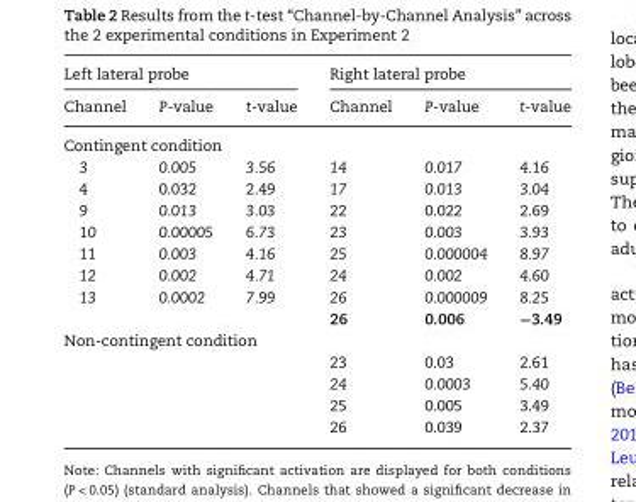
<table><thead><tr><td colspan="3">Left lateral probe</td><td colspan="3">Right lateral probe</td></tr><tr><td>Channel</td><td>P-value</td><td>t-value</td><td>Channel</td><td>P-value</td><td>t-value</td></tr></thead><tbody><tr><td colspan="6">Contingent condition</td></tr><tr><td>3</td><td>0.005</td><td>3.56</td><td>14</td><td>0.017</td><td>4.16</td></tr><tr><td>4</td><td>0.032</td><td>2.49</td><td>17</td><td>0.013</td><td>3.04</td></tr><tr><td>9</td><td>0.013</td><td>3.03</td><td>22</td><td>0.022</td><td>2.69</td></tr><tr><td>10</td><td>0.00005</td><td>6.73</td><td>23</td><td>0.003</td><td>3.93</td></tr><tr><td>11</td><td>0.003</td><td>4.16</td><td>25</td><td>0.000004</td><td>8.97</td></tr><tr><td>12</td><td>0.002</td><td>4.71</td><td>24</td><td>0.002</td><td>4.60</td></tr><tr><td rowspan="2">13</td><td>0.0002</td><td>7.99</td><td>26</td><td>0.000009</td><td>8.25</td></tr><tr><td></td><td></td><td>26</td><td>0.006</td><td>−3.49</td></tr><tr><td colspan="6">Non-contingent condition</td></tr><tr><td></td><td></td><td></td><td>23</td><td>0.03</td><td>2.61</td></tr><tr><td></td><td></td><td></td><td>24</td><td>0.0003</td><td>5.40</td></tr><tr><td></td><td></td><td></td><td>25</td><td>0.005</td><td>3.49</td></tr><tr><td></td><td></td><td></td><td>26</td><td>0.039</td><td>2.37</td></tr></tbody></table>